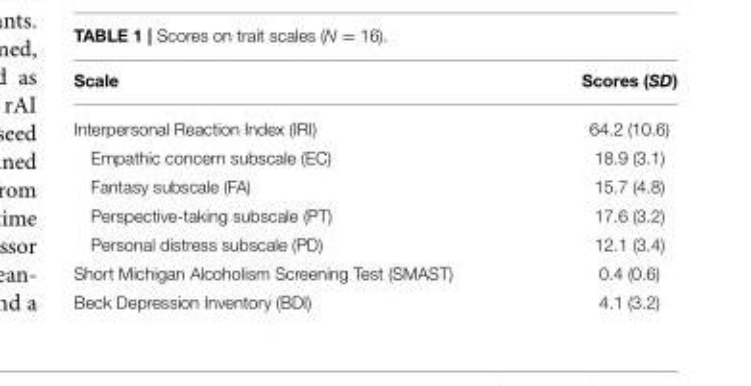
<table><thead><tr><td>Scale</td><td>Scores (SD)</td></tr></thead><tbody><tr><td>Interpersonal Reaction Index (IRI)</td><td>64.2 (10.6)</td></tr><tr><td>Empathic concern subscale (EC)</td><td>18.9 (3.1)</td></tr><tr><td>Fantasy subscale (FA)</td><td>15.7 (4.8)</td></tr><tr><td>Perspective-taking subscale (PT)</td><td>17.6 (3.2)</td></tr><tr><td>Personal distress subscale (PD)</td><td>12.1 (3.4)</td></tr><tr><td>Short Michigan Alcoholism Screening Test (SMAST)</td><td>0.4 (0.6)</td></tr><tr><td>Beck Depression Inventory (BDI)</td><td>4.1 (3.2)</td></tr></tbody></table>